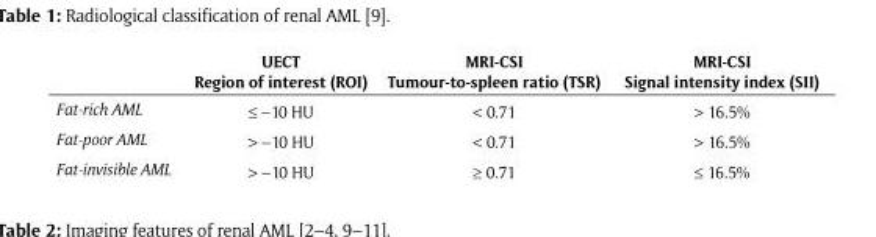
<table><thead><tr><td></td><td>UECT Region of interest (ROI)</td><td>MRI-CSI Tumour-to-spleen ratio (TSR)</td><td>MRI-CSI Signal intensity index (SII)</td></tr></thead><tbody><tr><td>Fat-rich AML</td><td>≤ –10 HU</td><td>&lt; 0.71</td><td>&gt; 16.5%</td></tr><tr><td>Fat-poor AML</td><td>&gt; –10 HU</td><td>&lt; 0.71</td><td>&gt; 16.5%</td></tr><tr><td>Fat-invisible AML</td><td>&gt; –10 HU</td><td>≥ 0.71</td><td>≤ 16.5%</td></tr></tbody></table>